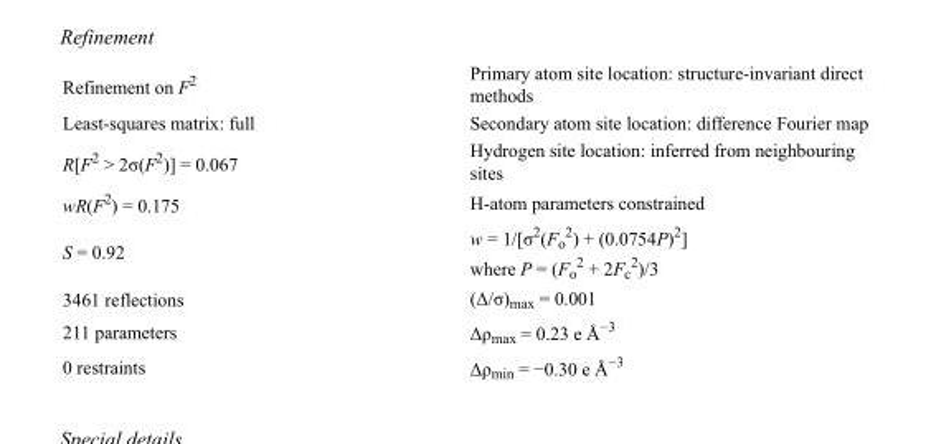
<table><tbody><tr><td>Refinement on F<sup>2</sup></td><td>Primary atom site location: structure-invariant direct methods</td></tr><tr><td>Least-squares matrix: full</td><td>Secondary atom site location: difference Fourier map</td></tr><tr><td>R[F<sup>2</sup> &gt; 2σ(F<sup>2</sup>)] = 0.067</td><td>Hydrogen site location: inferred from neighbouring sites</td></tr><tr><td>wR(F<sup>2</sup>) = 0.175</td><td>H-atom parameters constrained</td></tr><tr><td>S = 0.92</td><td>w = 1/[σ<sup>2</sup>(F<sub>o</sub> <sup>2</sup>) + (0.0754P)<sup>2</sup>] where P = (F<sub>o</sub> <sup>2</sup> + 2F<sub>c</sub> <sup>2</sup>)/3</td></tr><tr><td>3461 reflections</td><td>(Δ/σ)<sub>max</sub> = 0.001</td></tr><tr><td>211 parameters</td><td>Δρ<sub>max</sub> = 0.23 e Å<sup>−3</sup></td></tr><tr><td>0 restraints</td><td>Δρ<sub>min</sub> = −0.30 e Å<sup>−3</sup></td></tr></tbody></table>